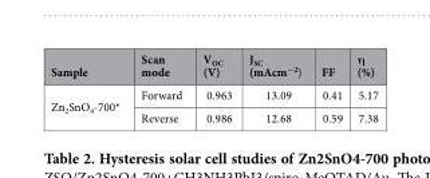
<table><thead><tr><td>Sample</td><td>Scan mode</td><td>V<sub>OC</sub> (V)</td><td>J<sub>SC</sub> (mAcm<sup>−2</sup>)</td><td>FF</td><td>η (%)</td></tr></thead><tbody><tr><td rowspan="2">Zn<sub>2</sub>SnO<sub>4</sub>-700*</td><td>Forward</td><td>0.963</td><td>13.09</td><td>0.41</td><td>5.17</td></tr><tr><td>Reverse</td><td>0.986</td><td>12.68</td><td>0.59</td><td>7.38</td></tr></tbody></table>